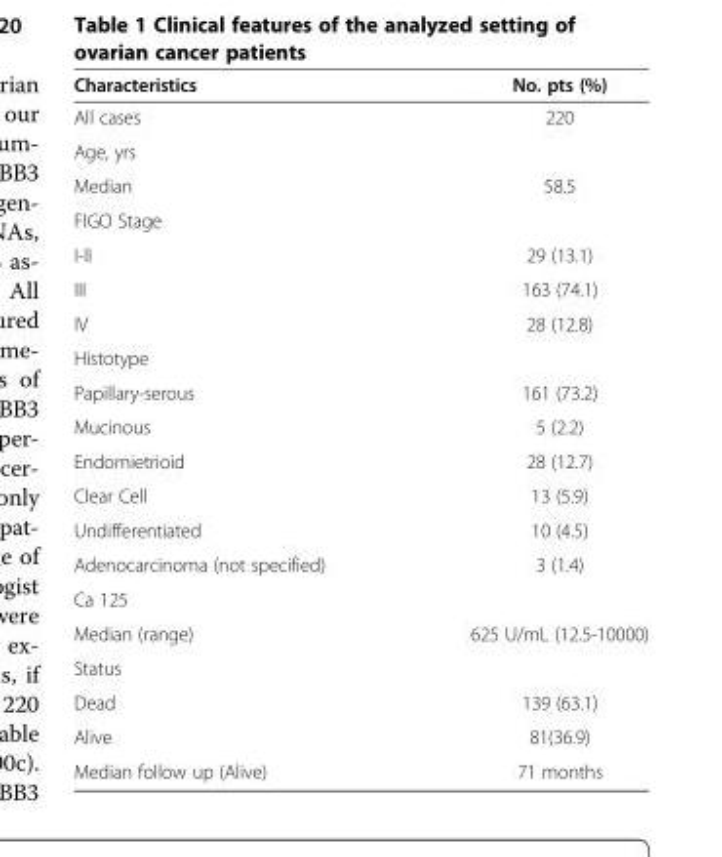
<table><thead><tr><td>Characteristics</td><td>No. pts (%)</td></tr></thead><tbody><tr><td>All cases</td><td>220</td></tr><tr><td colspan="2">Age, yrs</td></tr><tr><td>Median</td><td>58.5</td></tr><tr><td colspan="2">FIGO Stage</td></tr><tr><td>I-lI</td><td>29 (13.1)</td></tr><tr><td>III</td><td>163 (74.1)</td></tr><tr><td>IV</td><td>28 (12.8)</td></tr><tr><td colspan="2">Histotype</td></tr><tr><td>Papillary-serous</td><td>161 (73.2)</td></tr><tr><td>Mucinous</td><td>5 (2.2)</td></tr><tr><td>Endomietrioid</td><td>28 (12.7)</td></tr><tr><td>Clear Cell</td><td>13 (5.9)</td></tr><tr><td>Undifferentiated</td><td>10 (4.5)</td></tr><tr><td>Adenocarcinoma (not specified)</td><td>3 (1.4)</td></tr><tr><td colspan="2">Ca 125</td></tr><tr><td>Median (range)</td><td>625 U/mL (12.5-10000)</td></tr><tr><td colspan="2">Status</td></tr><tr><td>Dead</td><td>139 (63.1)</td></tr><tr><td>Alive</td><td>81(36.9)</td></tr><tr><td>Median follow up (Alive)</td><td>71 months</td></tr></tbody></table>